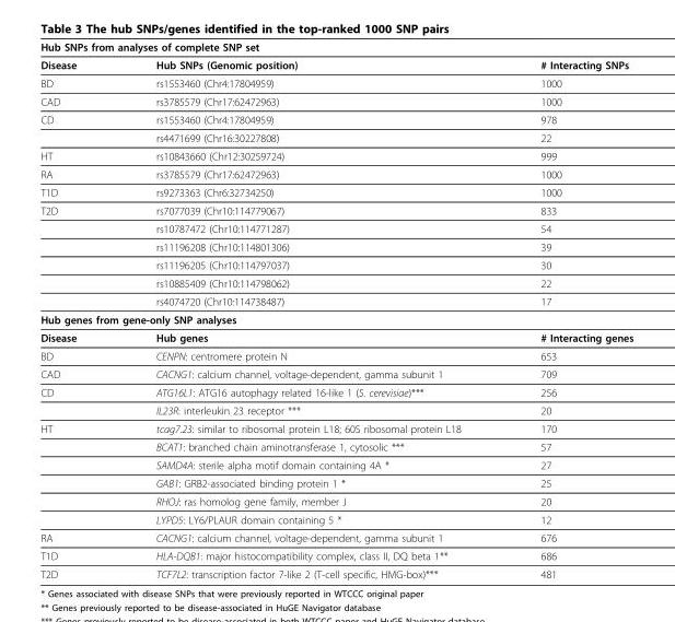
<table><thead><tr><td colspan="3">Hub SNPs from analyses of complete SNP set</td></tr><tr><td>Disease</td><td>Hub SNPs (Genomic position)</td><td># Interacting SNPs</td></tr></thead><tbody><tr><td>BD</td><td>rs1553460 (Chr4:17804959)</td><td>1000</td></tr><tr><td>CAD</td><td>rs3785579 (Chr17:62472963)</td><td>1000</td></tr><tr><td rowspan="2">CD</td><td>rs1553460 (Chr4:17804959)</td><td>978</td></tr><tr><td>rs4471699 (Chr16:30227808)</td><td>22</td></tr><tr><td>HT</td><td>rs10843660 (Chr12:30259724)</td><td>999</td></tr><tr><td>RA</td><td>rs3785579 (Chr17:62472963)</td><td>1000</td></tr><tr><td>T1D</td><td>rs9273363 (Chr6:32734250)</td><td>1000</td></tr><tr><td rowspan="6">T2D</td><td>rs7077039 (Chr10:114779067)</td><td>833</td></tr><tr><td>rs10787472 (Chr10:114771287)</td><td>54</td></tr><tr><td>rs11196208 (Chr10:114801306)</td><td>39</td></tr><tr><td>rs11196205 (Chr10:114797037)</td><td>30</td></tr><tr><td>rs10885409 (Chr10:114798062)</td><td>22</td></tr><tr><td>rs4074720 (Chr10:114738487)</td><td>17</td></tr><tr><td colspan="3">Hub genes from gene-only SNP analyses</td></tr><tr><td>Disease</td><td>Hub genes</td><td># Interacting genes</td></tr><tr><td>BD</td><td>CENPN: centromere protein N</td><td>653</td></tr><tr><td>CAD</td><td>CACNG1: calcium channel, voltage-dependent, gamma subunit 1</td><td>709</td></tr><tr><td rowspan="2">CD</td><td>ATG16L1: ATG16 autophagy related 16-like 1 (S. cerevisiae)***</td><td>256</td></tr><tr><td>IL23R: interleukin 23 receptor ***</td><td>20</td></tr><tr><td rowspan="6">HT</td><td>tcag7.23: similar to ribosomal protein L18; 60S ribosomal protein L18</td><td>170</td></tr><tr><td>BCAT1: branched chain aminotransferase 1, cytosolic ***</td><td>57</td></tr><tr><td>SAMD4A: sterile alpha motif domain containing 4A *</td><td>27</td></tr><tr><td>GAB1: GRB2-associated binding protein 1 *</td><td>25</td></tr><tr><td>RHOJ: ras homolog gene family, member J</td><td>20</td></tr><tr><td>LYPD5: LY6/PLAUR domain containing 5 *</td><td>12</td></tr><tr><td>RA</td><td>CACNG1: calcium channel, voltage-dependent, gamma subunit 1</td><td>676</td></tr><tr><td>T1D</td><td>HLA-DQB1: major histocompatibility complex, class II, DQ beta 1**</td><td>686</td></tr><tr><td>T2D</td><td>TCF7L2: transcription factor 7-like 2 (T-cell specific, HMG-box)***</td><td>481</td></tr></tbody></table>